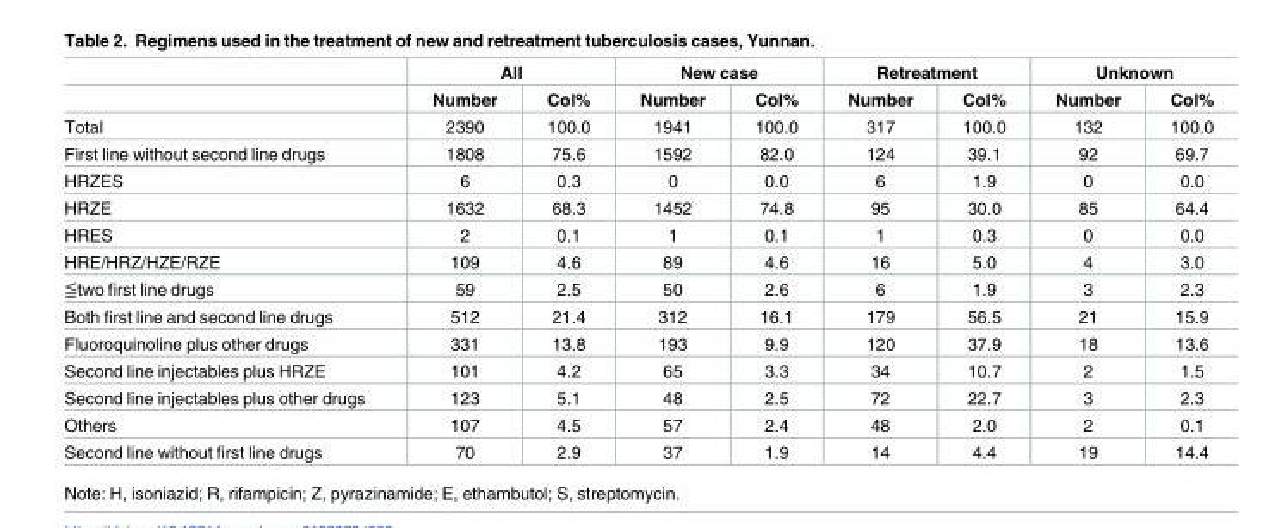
<table><thead><tr><td rowspan="2"></td><td colspan="2">All</td><td colspan="2">New case</td><td colspan="2">Retreatment</td><td colspan="2">Unknown</td></tr><tr><td>Number</td><td>Col%</td><td>Number</td><td>Col%</td><td>Number</td><td>Col%</td><td>Number</td><td>Col%</td></tr></thead><tbody><tr><td>Total</td><td>2390</td><td>100.0</td><td>1941</td><td>100.0</td><td>317</td><td>100.0</td><td>132</td><td>100.0</td></tr><tr><td>First line without second line drugs</td><td>1808</td><td>75.6</td><td>1592</td><td>82.0</td><td>124</td><td>39.1</td><td>92</td><td>69.7</td></tr><tr><td>HRZES</td><td>6</td><td>0.3</td><td>0</td><td>0.0</td><td>6</td><td>1.9</td><td>0</td><td>0.0</td></tr><tr><td>HRZE</td><td>1632</td><td>68.3</td><td>1452</td><td>74.8</td><td>95</td><td>30.0</td><td>85</td><td>64.4</td></tr><tr><td>HRES</td><td>2</td><td>0.1</td><td>1</td><td>0.1</td><td>1</td><td>0.3</td><td>0</td><td>0.0</td></tr><tr><td>HRE/HRZ/HZE/RZE</td><td>109</td><td>4.6</td><td>89</td><td>4.6</td><td>16</td><td>5.0</td><td>4</td><td>3.0</td></tr><tr><td>≦two first line drugs</td><td>59</td><td>2.5</td><td>50</td><td>2.6</td><td>6</td><td>1.9</td><td>3</td><td>2.3</td></tr><tr><td>Both first line and second line drugs</td><td>512</td><td>21.4</td><td>312</td><td>16.1</td><td>179</td><td>56.5</td><td>21</td><td>15.9</td></tr><tr><td>Fluoroquinoline plus other drugs</td><td>331</td><td>13.8</td><td>193</td><td>9.9</td><td>120</td><td>37.9</td><td>18</td><td>13.6</td></tr><tr><td>Second line injectables plus HRZE</td><td>101</td><td>4.2</td><td>65</td><td>3.3</td><td>34</td><td>10.7</td><td>2</td><td>1.5</td></tr><tr><td>Second line injectables plus other drugs</td><td>123</td><td>5.1</td><td>48</td><td>2.5</td><td>72</td><td>22.7</td><td>3</td><td>2.3</td></tr><tr><td>Others</td><td>107</td><td>4.5</td><td>57</td><td>2.4</td><td>48</td><td>2.0</td><td>2</td><td>0.1</td></tr><tr><td>Second line without first line drugs</td><td>70</td><td>2.9</td><td>37</td><td>1.9</td><td>14</td><td>4.4</td><td>19</td><td>14.4</td></tr></tbody></table>